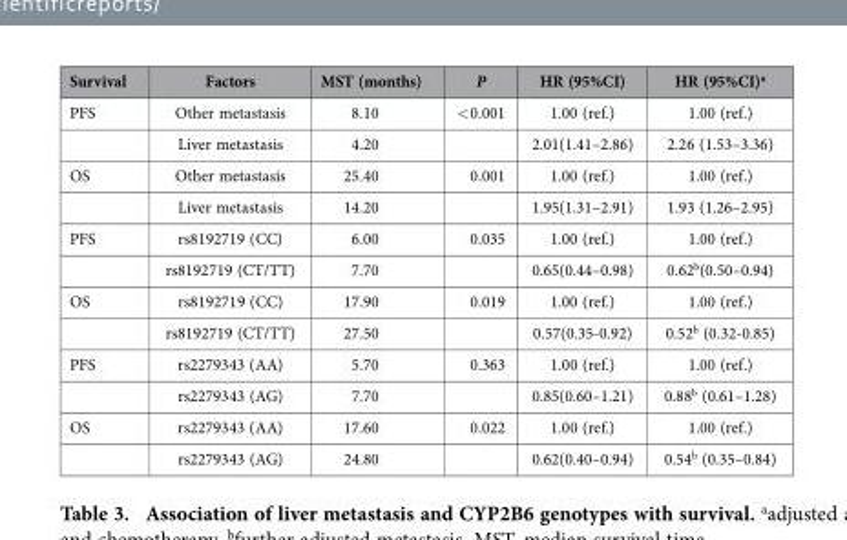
<table><thead><tr><td>Survival</td><td>Factors</td><td>MST (months)</td><td>P</td><td>HR (95%CI)</td><td>HR (95%CI)<sup>a</sup></td></tr></thead><tbody><tr><td rowspan="2">PFS</td><td>Other metastasis</td><td>8.10</td><td>&lt; 0.001</td><td>1.00 (ref.)</td><td>1.00 (ref.)</td></tr><tr><td>Liver metastasis</td><td>4.20</td><td></td><td>2.01(1.41–2.86)</td><td>2.26 (1.53–3.36)</td></tr><tr><td rowspan="2">OS</td><td>Other metastasis</td><td>25.40</td><td>0.001</td><td>1.00 (ref.)</td><td>1.00 (ref.)</td></tr><tr><td>Liver metastasis</td><td>14.20</td><td></td><td>1.95(1.31–2.91)</td><td>1.93 (1.26–2.95)</td></tr><tr><td rowspan="2">PFS</td><td>rs8192719 (CC)</td><td>6.00</td><td>0.035</td><td>1.00 (ref.)</td><td>1.00 (ref.)</td></tr><tr><td>rs8192719 (CT/TT)</td><td>7.70</td><td></td><td>0.65(0.44–0.98)</td><td>0.62<sup>b</sup>(0.50–0.94)</td></tr><tr><td rowspan="2">OS</td><td>rs8192719 (CC)</td><td>17.90</td><td>0.019</td><td>1.00 (ref.)</td><td>1.00 (ref.)</td></tr><tr><td>rs8192719 (CT/TT)</td><td>27.50</td><td></td><td>0.57(0.35-0.92)</td><td>0.52<sup>b</sup> (0.32-0.85)</td></tr><tr><td rowspan="2">PFS</td><td>rs2279343 (AA)</td><td>5.70</td><td>0.363</td><td>1.00 (ref.)</td><td>1.00 (ref.)</td></tr><tr><td>rs2279343 (AG)</td><td>7.70</td><td></td><td>0.85(0.60–1.21)</td><td>0.88<sup>b</sup> (0.61–1.28)</td></tr><tr><td rowspan="2">OS</td><td>rs2279343 (AA)</td><td>17.60</td><td>0.022</td><td>1.00 (ref.)</td><td>1.00 (ref.)</td></tr><tr><td>rs2279343 (AG)</td><td>24.80</td><td></td><td>0.62(0.40–0.94)</td><td>0.54<sup>b</sup> (0.35–0.84)</td></tr></tbody></table>